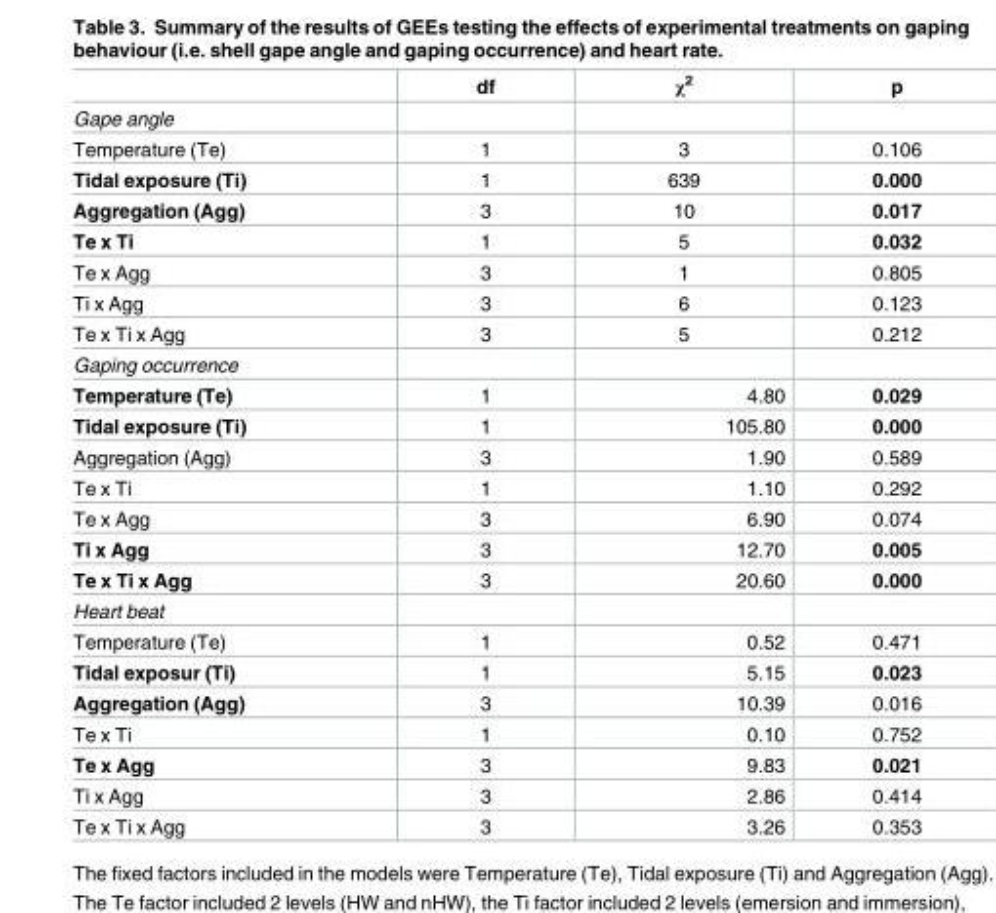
<table><thead><tr><td></td><td>df</td><td>χ<sup>2</sup></td><td>p</td></tr></thead><tbody><tr><td colspan="4">Gape angle</td></tr><tr><td>Temperature (Te)</td><td>1</td><td>3</td><td>0.106</td></tr><tr><td>Tidal exposure (Ti)</td><td>1</td><td>639</td><td>0.000</td></tr><tr><td>Aggregation (Agg)</td><td>3</td><td>10</td><td>0.017</td></tr><tr><td>Te x Ti</td><td>1</td><td>5</td><td>0.032</td></tr><tr><td>Te x Agg</td><td>3</td><td>1</td><td>0.805</td></tr><tr><td>Ti x Agg</td><td>3</td><td>6</td><td>0.123</td></tr><tr><td>Te x Ti x Agg</td><td>3</td><td>5</td><td>0.212</td></tr><tr><td colspan="4">Gaping occurrence</td></tr><tr><td>Temperature (Te)</td><td>1</td><td>4.80</td><td>0.029</td></tr><tr><td>Tidal exposure (Ti)</td><td>1</td><td>105.80</td><td>0.000</td></tr><tr><td>Aggregation (Agg)</td><td>3</td><td>1.90</td><td>0.589</td></tr><tr><td>Te x Ti</td><td>1</td><td>1.10</td><td>0.292</td></tr><tr><td>Te x Agg</td><td>3</td><td>6.90</td><td>0.074</td></tr><tr><td>Ti x Agg</td><td>3</td><td>12.70</td><td>0.005</td></tr><tr><td>Te x Ti x Agg</td><td>3</td><td>20.60</td><td>0.000</td></tr><tr><td colspan="4">Heart beat</td></tr><tr><td>Temperature (Te)</td><td>1</td><td>0.52</td><td>0.471</td></tr><tr><td>Tidal exposur (Ti)</td><td>1</td><td>5.15</td><td>0.023</td></tr><tr><td>Aggregation (Agg)</td><td>3</td><td>10.39</td><td>0.016</td></tr><tr><td>Te x Ti</td><td>1</td><td>0.10</td><td>0.752</td></tr><tr><td>Te x Agg</td><td>3</td><td>9.83</td><td>0.021</td></tr><tr><td>Ti x Agg</td><td>3</td><td>2.86</td><td>0.414</td></tr><tr><td>Te x Ti x Agg</td><td>3</td><td>3.26</td><td>0.353</td></tr></tbody></table>